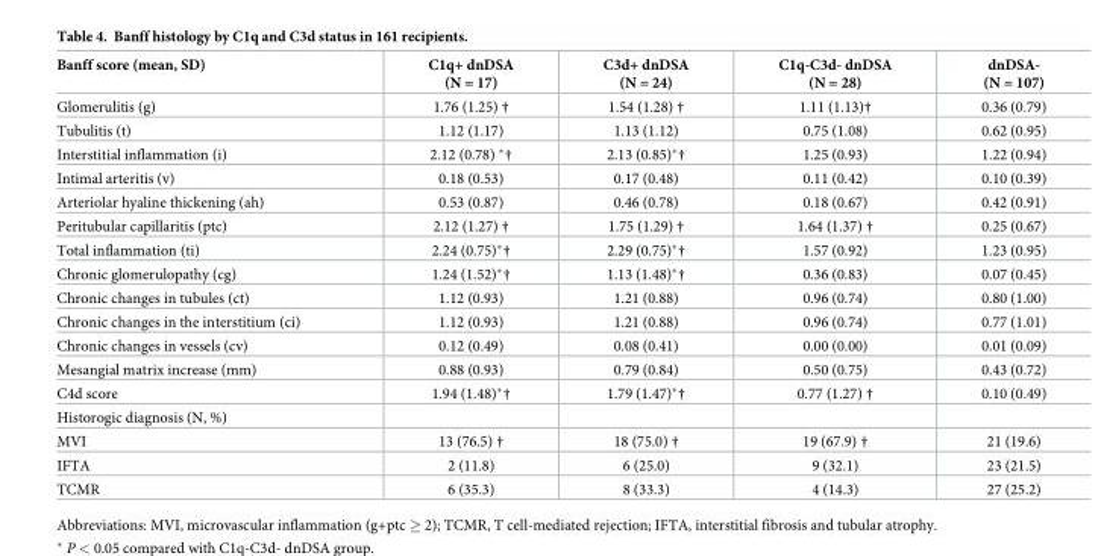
<table><thead><tr><td>Banff score (mean, SD)</td><td>C1q+ dnDSA (N = 17)</td><td>C3d+ dnDSA (N = 24)</td><td>C1q-C3d- dnDSA (N = 28)</td><td>dnDSA- (N = 107)</td></tr></thead><tbody><tr><td>Glomerulitis (g)</td><td>1.76 (1.25) †</td><td>1.54 (1.28) †</td><td>1.11 (1.13)†</td><td>0.36 (0.79)</td></tr><tr><td>Tubulitis (t)</td><td>1.12 (1.17)</td><td>1.13 (1.12)</td><td>0.75 (1.08)</td><td>0.62 (0.95)</td></tr><tr><td>Interstitial inflammation (i)</td><td>2.12 (0.78) *†</td><td>2.13 (0.85)*†</td><td>1.25 (0.93)</td><td>1.22 (0.94)</td></tr><tr><td>Intimal arteritis (v)</td><td>0.18 (0.53)</td><td>0.17 (0.48)</td><td>0.11 (0.42)</td><td>0.10 (0.39)</td></tr><tr><td>Arteriolar hyaline thickening (ah)</td><td>0.53 (0.87)</td><td>0.46 (0.78)</td><td>0.18 (0.67)</td><td>0.42 (0.91)</td></tr><tr><td>Peritubular capillaritis (ptc)</td><td>2.12 (1.27) †</td><td>1.75 (1.29) †</td><td>1.64 (1.37) †</td><td>0.25 (0.67)</td></tr><tr><td>Total inflammation (ti)</td><td>2.24 (0.75)*†</td><td>2.29 (0.75)*†</td><td>1.57 (0.92)</td><td>1.23 (0.95)</td></tr><tr><td>Chronic glomerulopathy (cg)</td><td>1.24 (1.52)*†</td><td>1.13 (1.48)*†</td><td>0.36 (0.83)</td><td>0.07 (0.45)</td></tr><tr><td>Chronic changes in tubules (ct)</td><td>1.12 (0.93)</td><td>1.21 (0.88)</td><td>0.96 (0.74)</td><td>0.80 (1.00)</td></tr><tr><td>Chronic changes in the interstitium (ci)</td><td>1.12 (0.93)</td><td>1.21 (0.88)</td><td>0.96 (0.74)</td><td>0.77 (1.01)</td></tr><tr><td>Chronic changes in vessels (cv)</td><td>0.12 (0.49)</td><td>0.08 (0.41)</td><td>0.00 (0.00)</td><td>0.01 (0.09)</td></tr><tr><td>Mesangial matrix increase (mm)</td><td>0.88 (0.93)</td><td>0.79 (0.84)</td><td>0.50 (0.75)</td><td>0.43 (0.72)</td></tr><tr><td>C4d score</td><td>1.94 (1.48)*†</td><td>1.79 (1.47)*†</td><td>0.77 (1.27) †</td><td>0.10 (0.49)</td></tr><tr><td colspan="5">Historogic diagnosis (N, %)</td></tr><tr><td>MVI</td><td>13 (76.5) †</td><td>18 (75.0) †</td><td>19 (67.9) †</td><td>21 (19.6)</td></tr><tr><td>IFTA</td><td>2 (11.8)</td><td>6 (25.0)</td><td>9 (32.1)</td><td>23 (21.5)</td></tr><tr><td>TCMR</td><td>6 (35.3)</td><td>8 (33.3)</td><td>4 (14.3)</td><td>27 (25.2)</td></tr></tbody></table>